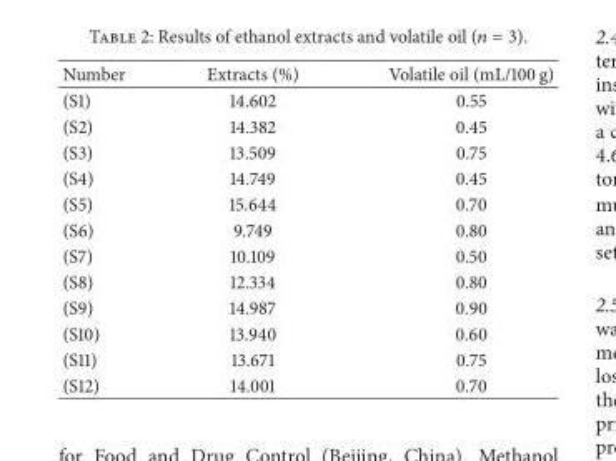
<table><thead><tr><td>Number</td><td>Extracts (%)</td><td>Volatile oil (mL/100 g)</td></tr></thead><tbody><tr><td>(S1)</td><td>14.602</td><td>0.55</td></tr><tr><td>(S2)</td><td>14.382</td><td>0.45</td></tr><tr><td>(S3)</td><td>13.509</td><td>0.75</td></tr><tr><td>(S4)</td><td>14.749</td><td>0.45</td></tr><tr><td>(S5)</td><td>15.644</td><td>0.70</td></tr><tr><td>(S6)</td><td>9.749</td><td>0.80</td></tr><tr><td>(S7)</td><td>10.109</td><td>0.50</td></tr><tr><td>(S8)</td><td>12.334</td><td>0.80</td></tr><tr><td>(S9)</td><td>14.987</td><td>0.90</td></tr><tr><td>(S10)</td><td>13.940</td><td>0.60</td></tr><tr><td>(S11)</td><td>13.671</td><td>0.75</td></tr><tr><td>(S12)</td><td>14.001</td><td>0.70</td></tr></tbody></table>